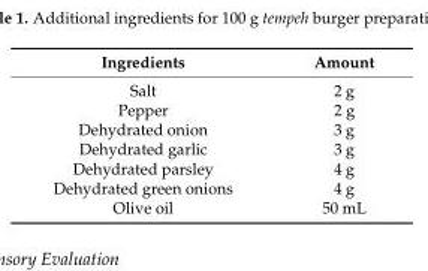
<table><thead><tr><td>Ingredients</td><td>Amount</td></tr></thead><tbody><tr><td>Salt</td><td>2 g</td></tr><tr><td>Pepper</td><td>2 g</td></tr><tr><td>Dehydrated onion</td><td>3 g</td></tr><tr><td>Dehydrated garlic</td><td>3 g</td></tr><tr><td>Dehydrated parsley</td><td>4 g</td></tr><tr><td>Dehydrated green onions</td><td>4 g</td></tr><tr><td>Olive oil</td><td>50 mL</td></tr></tbody></table>